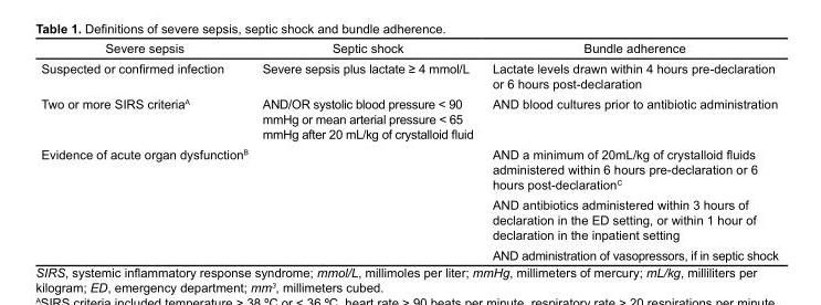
<table><thead><tr><td>Severe sepsis</td><td>Septic shock</td><td>Bundle adherence</td></tr></thead><tbody><tr><td>Suspected or confirmed infection</td><td>Severe sepsis plus lactate ≥ 4 mmol/L</td><td>Lactate levels drawn within 4 hours pre-declaration or 6 hours post-declaration</td></tr><tr><td>Two or more SIRS criteria<sup>A</sup></td><td>AND/OR systolic blood pressure &lt; 90 mmHg or mean arterial pressure &lt; 65 mmHg after 20 mL/kg of crystalloid fluid</td><td>AND blood cultures prior to antibiotic administration</td></tr><tr><td rowspan="3">Evidence of acute organ dysfunction<sup>B</sup></td><td></td><td>AND a minimum of 20mL/kg of crystalloid fluids administered within 6 hours pre-declaration or 6 hours post-declaration<sup>C</sup></td></tr><tr><td></td><td>AND antibiotics administered within 3 hours of declaration in the ED setting, or within 1 hour of declaration in the inpatient setting</td></tr><tr><td></td><td>AND administration of vasopressors, if in septic shock</td></tr></tbody></table>